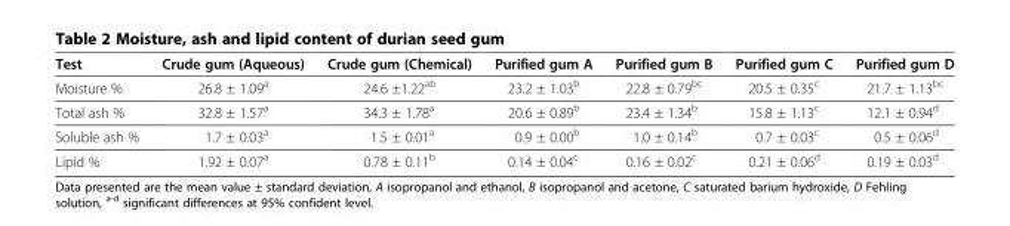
<table><thead><tr><td>Test</td><td>Crude gum (Aqueous)</td><td>Crude gum (Chemical)</td><td>Purified gum A</td><td>Purified gum B</td><td>Purified gum C</td><td>Purified gum D</td></tr></thead><tbody><tr><td>Moisture %</td><td>26.8 ± 1.09<sup>a</sup></td><td>24.6 ±1.22<sup>ab</sup></td><td>23.2 ± 1.03<sup>b</sup></td><td>22.8 ± 0.79<sup>bc</sup></td><td>20.5 ± 0.35<sup>c</sup></td><td>21.7 ± 1.13<sup>bc</sup></td></tr><tr><td>Total ash %</td><td>32.8 ± 1.57<sup>a</sup></td><td>34.3 ± 1.78<sup>a</sup></td><td>20.6 ± 0.89<sup>b</sup></td><td>23.4 ± 1.34<sup>b</sup></td><td>15.8 ± 1.13<sup>c</sup></td><td>12.1 ± 0.94<sup>d</sup></td></tr><tr><td>Soluble ash %</td><td>1.7 ± 0.03<sup>a</sup></td><td>1.5 ± 0.01<sup>a</sup></td><td>0.9 ± 0.00<sup>b</sup></td><td>1.0 ± 0.14<sup>b</sup></td><td>0.7 ± 0.03<sup>c</sup></td><td>0.5 ± 0.06<sup>d</sup></td></tr><tr><td>Lipid %</td><td>1.92 ± 0.07<sup>a</sup></td><td>0.78 ± 0.11<sup>b</sup></td><td>0.14 ± 0.04<sup>c</sup></td><td>0.16 ± 0.02<sup>c</sup></td><td>0.21 ± 0.06<sup>d</sup></td><td>0.19 ± 0.03<sup>d</sup></td></tr></tbody></table>